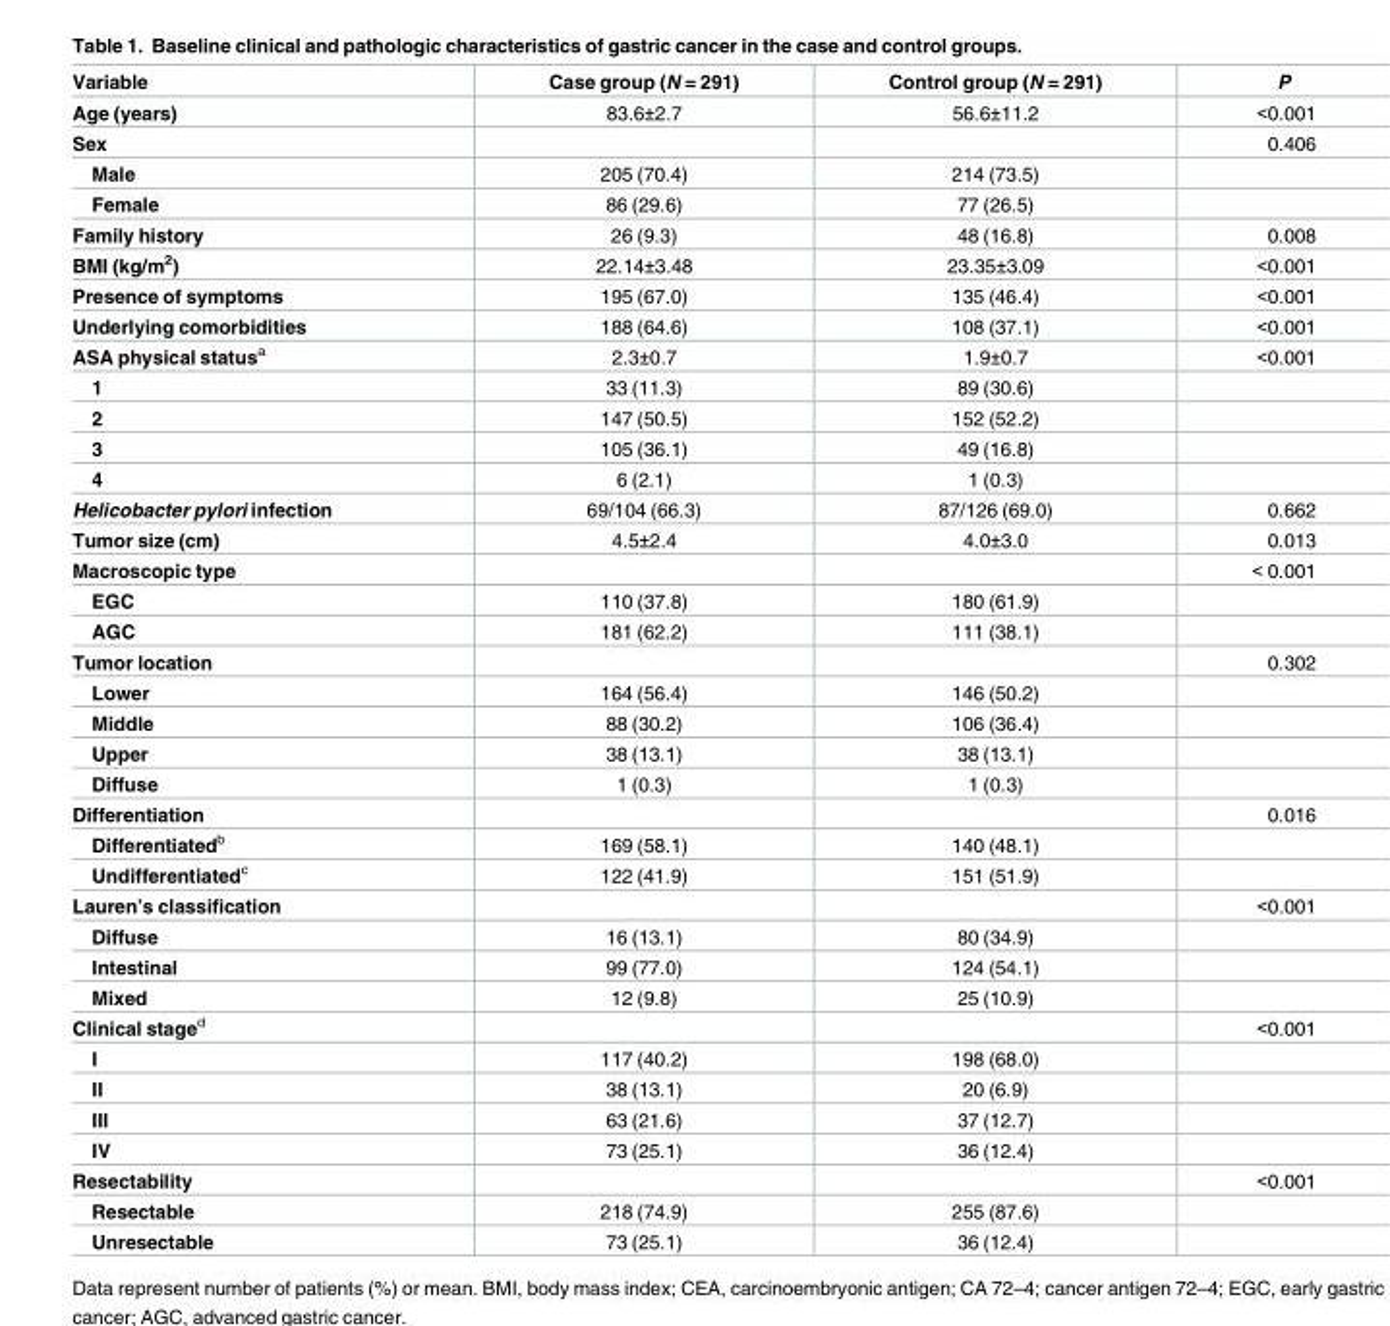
<table><thead><tr><td>Variable</td><td>Case group (N = 291)</td><td>Control group (N = 291)</td><td>P</td></tr></thead><tbody><tr><td>Age (years)</td><td>83.6±2.7</td><td>56.6±11.2</td><td>&lt;0.001</td></tr><tr><td>Sex</td><td></td><td></td><td>0.406</td></tr><tr><td>Male</td><td>205 (70.4)</td><td>214 (73.5)</td><td></td></tr><tr><td>Female</td><td>86 (29.6)</td><td>77 (26.5)</td><td></td></tr><tr><td>Family history</td><td>26 (9.3)</td><td>48 (16.8)</td><td>0.008</td></tr><tr><td>BMI (kg/m<sup>2</sup>)</td><td>22.14±3.48</td><td>23.35±3.09</td><td>&lt;0.001</td></tr><tr><td>Presence of symptoms</td><td>195 (67.0)</td><td>135 (46.4)</td><td>&lt;0.001</td></tr><tr><td>Underlying comorbidities</td><td>188 (64.6)</td><td>108 (37.1)</td><td>&lt;0.001</td></tr><tr><td>ASA physical status<sup>a</sup></td><td>2.3±0.7</td><td>1.9±0.7</td><td>&lt;0.001</td></tr><tr><td>1</td><td>33 (11.3)</td><td>89 (30.6)</td><td></td></tr><tr><td>2</td><td>147 (50.5)</td><td>152 (52.2)</td><td></td></tr><tr><td>3</td><td>105 (36.1)</td><td>49 (16.8)</td><td></td></tr><tr><td>4</td><td>6 (2.1)</td><td>1 (0.3)</td><td></td></tr><tr><td>Helicobacter pylori infection</td><td>69/104 (66.3)</td><td>87/126 (69.0)</td><td>0.662</td></tr><tr><td>Tumor size (cm)</td><td>4.5±2.4</td><td>4.0±3.0</td><td>0.013</td></tr><tr><td>Macroscopic type</td><td></td><td></td><td>&lt; 0.001</td></tr><tr><td>EGC</td><td>110 (37.8)</td><td>180 (61.9)</td><td></td></tr><tr><td>AGC</td><td>181 (62.2)</td><td>111 (38.1)</td><td></td></tr><tr><td>Tumor location</td><td></td><td></td><td>0.302</td></tr><tr><td>Lower</td><td>164 (56.4)</td><td>146 (50.2)</td><td></td></tr><tr><td>Middle</td><td>88 (30.2)</td><td>106 (36.4)</td><td></td></tr><tr><td>Upper</td><td>38 (13.1)</td><td>38 (13.1)</td><td></td></tr><tr><td>Diffuse</td><td>1 (0.3)</td><td>1 (0.3)</td><td></td></tr><tr><td>Differentiation</td><td></td><td></td><td>0.016</td></tr><tr><td>Differentiated<sup>b</sup></td><td>169 (58.1)</td><td>140 (48.1)</td><td></td></tr><tr><td>Undifferentiated<sup>c</sup></td><td>122 (41.9)</td><td>151 (51.9)</td><td></td></tr><tr><td>Lauren’s classification</td><td></td><td></td><td>&lt;0.001</td></tr><tr><td>Diffuse</td><td>16 (13.1)</td><td>80 (34.9)</td><td></td></tr><tr><td>Intestinal</td><td>99 (77.0)</td><td>124 (54.1)</td><td></td></tr><tr><td>Mixed</td><td>12 (9.8)</td><td>25 (10.9)</td><td></td></tr><tr><td>Clinical stage<sup>d</sup></td><td></td><td></td><td>&lt;0.001</td></tr><tr><td>I</td><td>117 (40.2)</td><td>198 (68.0)</td><td></td></tr><tr><td>II</td><td>38 (13.1)</td><td>20 (6.9)</td><td></td></tr><tr><td>III</td><td>63 (21.6)</td><td>37 (12.7)</td><td></td></tr><tr><td>IV</td><td>73 (25.1)</td><td>36 (12.4)</td><td></td></tr><tr><td>Resectability</td><td></td><td></td><td>&lt;0.001</td></tr><tr><td>Resectable</td><td>218 (74.9)</td><td>255 (87.6)</td><td></td></tr><tr><td>Unresectable</td><td>73 (25.1)</td><td>36 (12.4)</td><td></td></tr></tbody></table>